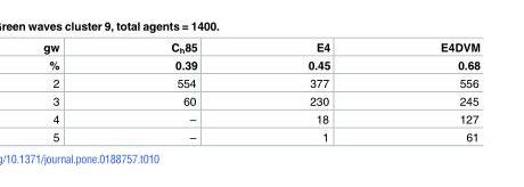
<table><thead><tr><td rowspan="2">gw %</td><td rowspan="2">C<sub>h</sub>85 0.39</td><td rowspan="2">E4 0.45</td><td rowspan="2">E4DVM 0.68</td></tr><tr></tr></thead><tbody><tr><td>2</td><td>554</td><td>377</td><td>556</td></tr><tr><td>3</td><td>60</td><td>230</td><td>245</td></tr><tr><td>4</td><td>–</td><td>18</td><td>127</td></tr><tr><td>5</td><td>–</td><td>1</td><td>61</td></tr></tbody></table>